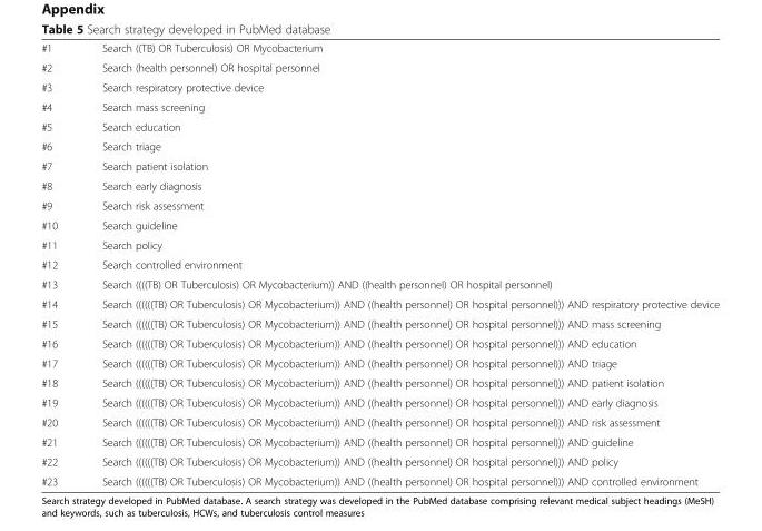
<table><tbody><tr><td>#1</td><td>Search ((TB) OR Tuberculosis) OR Mycobacterium</td></tr><tr><td>#2</td><td>Search (health personnel) OR hospital personnel</td></tr><tr><td>#3</td><td>Search respiratory protective device</td></tr><tr><td>#4</td><td>Search mass screening</td></tr><tr><td>#5</td><td>Search education</td></tr><tr><td>#6</td><td>Search triage</td></tr><tr><td>#7</td><td>Search patient isolation</td></tr><tr><td>#8</td><td>Search early diagnosis</td></tr><tr><td>#9</td><td>Search risk assessment</td></tr><tr><td>#10</td><td>Search guideline</td></tr><tr><td>#11</td><td>Search policy</td></tr><tr><td>#12</td><td>Search controlled environment</td></tr><tr><td>#13</td><td>Search ((((TB) OR Tuberculosis) OR Mycobacterium)) AND ((health personnel) OR hospital personnel)</td></tr><tr><td>#14</td><td>Search ((((((TB) OR Tuberculosis) OR Mycobacterium)) AND ((health personnel) OR hospital personnel))) AND respiratory protective device</td></tr><tr><td>#15</td><td>Search ((((((TB) OR Tuberculosis) OR Mycobacterium)) AND ((health personnel) OR hospital personnel))) AND mass screening</td></tr><tr><td>#16</td><td>Search ((((((TB) OR Tuberculosis) OR Mycobacterium)) AND ((health personnel) OR hospital personnel))) AND education</td></tr><tr><td>#17</td><td>Search ((((((TB) OR Tuberculosis) OR Mycobacterium)) AND ((health personnel) OR hospital personnel))) AND triage</td></tr><tr><td>#18</td><td>Search ((((((TB) OR Tuberculosis) OR Mycobacterium)) AND ((health personnel) OR hospital personnel))) AND patient isolation</td></tr><tr><td>#19</td><td>Search ((((((TB) OR Tuberculosis) OR Mycobacterium)) AND ((health personnel) OR hospital personnel))) AND early diagnosis</td></tr><tr><td>#20</td><td>Search ((((((TB) OR Tuberculosis) OR Mycobacterium)) AND ((health personnel) OR hospital personnel))) AND risk assessment</td></tr><tr><td>#21</td><td>Search ((((((TB) OR Tuberculosis) OR Mycobacterium)) AND ((health personnel) OR hospital personnel))) AND guideline</td></tr><tr><td>#22</td><td>Search ((((((TB) OR Tuberculosis) OR Mycobacterium)) AND ((health personnel) OR hospital personnel))) AND policy</td></tr><tr><td>#23</td><td>Search ((((((TB) OR Tuberculosis) OR Mycobacterium)) AND ((health personnel) OR hospital personnel))) AND controlled environment</td></tr></tbody></table>